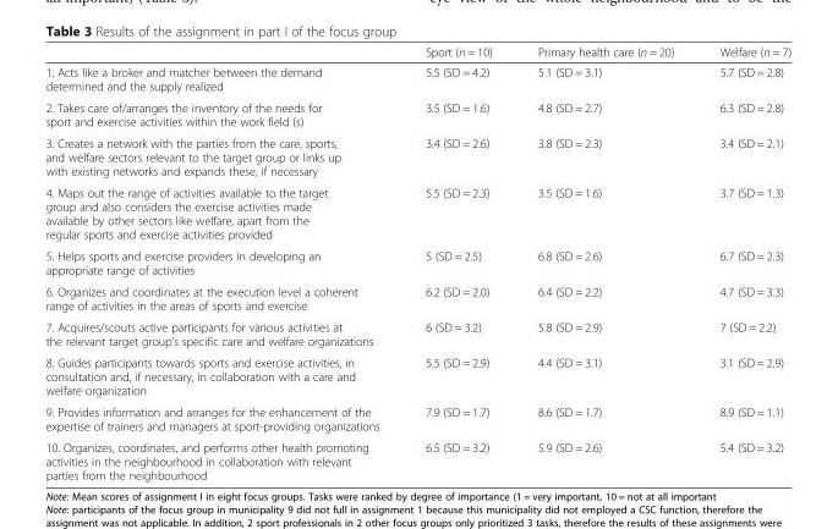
<table><thead><tr><td></td><td>Sport (n = 10)</td><td>Primary health care (n = 20)</td><td>Welfare (n = 7)</td></tr></thead><tbody><tr><td>1. Acts like a broker and matcher between the demand determined and the supply realized</td><td>5.5 (SD = 4.2)</td><td>5.1 (SD = 3.1)</td><td>5.7 (SD = 2.8)</td></tr><tr><td>2. Takes care of/arranges the inventory of the needs for sport and exercise activities within the work field (s)</td><td>3.5 (SD = 1.6)</td><td>4.8 (SD = 2.7)</td><td>6.3 (SD = 2.8)</td></tr><tr><td>3. Creates a network with the parties from the care, sports, and welfare sectors relevant to the target group or links up with existing networks and expands these, if necessary</td><td>3.4 (SD = 2.6)</td><td>3.8 (SD = 2.3)</td><td>3.4 (SD = 2.1)</td></tr><tr><td>4. Maps out the range of activities available to the target group and also considers the exercise activities made available by other sectors like welfare, apart from the regular sports and exercise activities provided</td><td>5.5 (SD = 2.3)</td><td>3.5 (SD = 1.6)</td><td>3.7 (SD = 1.3)</td></tr><tr><td>5. Helps sports and exercise providers in developing an appropriate range of activities</td><td>5 (SD = 2.5)</td><td>6.8 (SD = 2.6)</td><td>6.7 (SD = 2.3)</td></tr><tr><td>6. Organizes and coordinates at the execution level a coherent range of activities in the areas of sports and exercise</td><td>6.2 (SD = 2.0)</td><td>6.4 (SD = 2.2)</td><td>4.7 (SD = 3.3)</td></tr><tr><td>7. Acquires/scouts active participants for various activities at the relevant target group’s specific care and welfare organizations</td><td>6 (SD = 3.2)</td><td>5.8 (SD = 2.9)</td><td>7 (SD = 2.2)</td></tr><tr><td>8. Guides participants towards sports and exercise activities, in consultation and, if necessary, in collaboration with a care and welfare organization</td><td>5.5 (SD = 2.9)</td><td>4.4 (SD = 3.1)</td><td>3.1 (SD = 2.9)</td></tr><tr><td>9. Provides information and arranges for the enhancement of the expertise of trainers and managers at sport-providing organizations</td><td>7.9 (SD = 1.7)</td><td>8.6 (SD = 1.7)</td><td>8.9 (SD = 1.1)</td></tr><tr><td>10. Organizes, coordinates, and performs other health promoting activities in the neighbourhood in collaboration with relevant parties from the neighbourhood</td><td>6.5 (SD = 3.2)</td><td>5.9 (SD = 2.6)</td><td>5.4 (SD = 3.2)</td></tr></tbody></table>